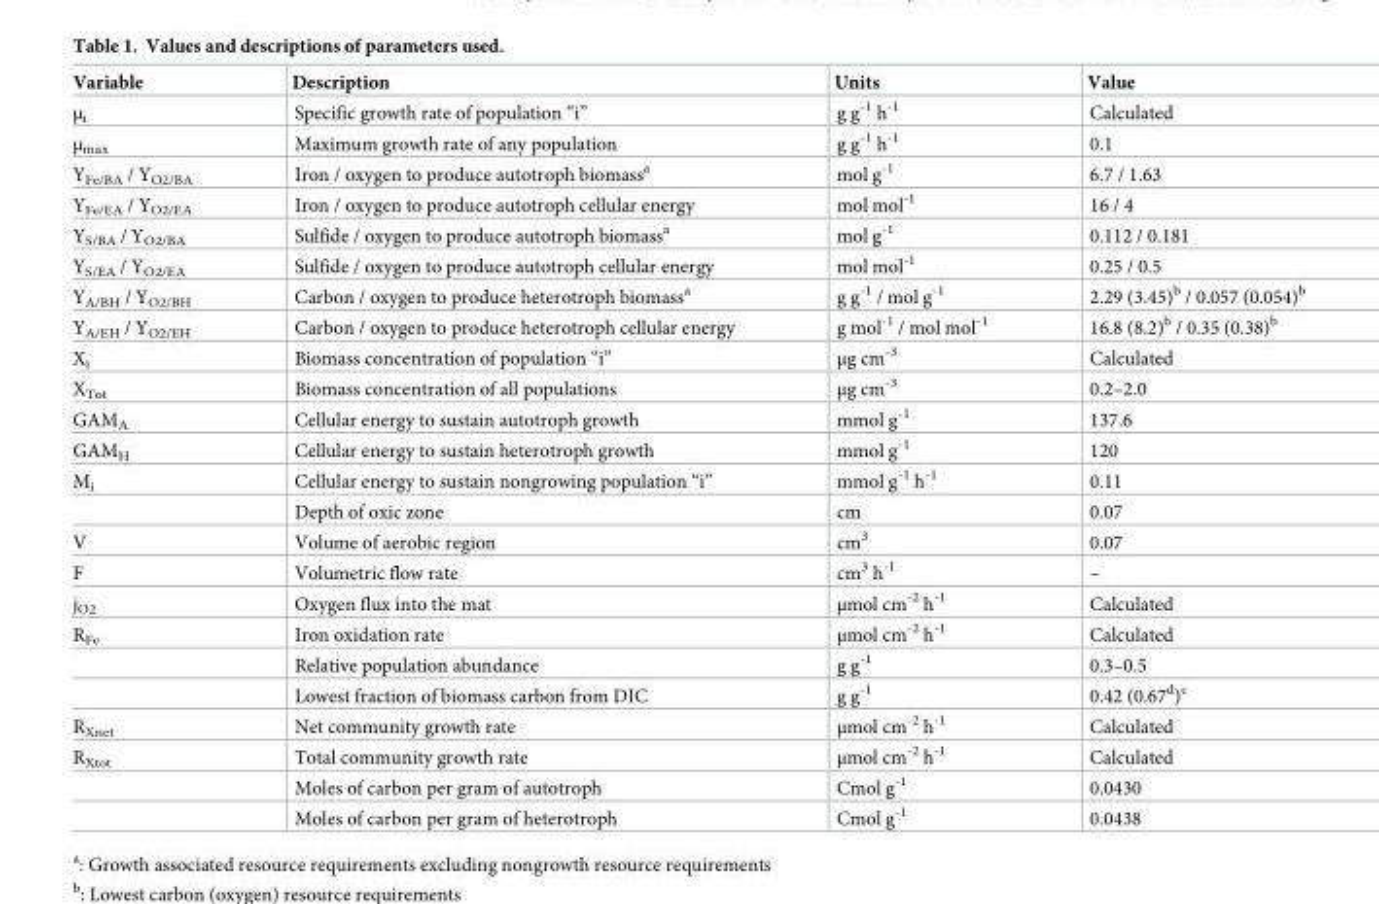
<table><thead><tr><td>Variable</td><td>Description</td><td>Units</td><td>Value</td></tr></thead><tbody><tr><td>μ<sub>i</sub></td><td>Specific growth rate of population “i”</td><td>g g<sup>-1</sup> h<sup>-1</sup></td><td>Calculated</td></tr><tr><td>μ<sub>max</sub></td><td>Maximum growth rate of any population</td><td>g g<sup>-1</sup> h<sup>-1</sup></td><td>0.1</td></tr><tr><td>Y<sub>Fe/BA</sub> / Y<sub>O2/BA</sub></td><td>Iron / oxygen to produce autotroph biomass<sup>a</sup></td><td>mol g<sup>-1</sup></td><td>6.7 / 1.63</td></tr><tr><td>Y<sub>Fe/EA</sub> / Y<sub>O2/EA</sub></td><td>Iron / oxygen to produce autotroph cellular energy</td><td>mol mol<sup>-1</sup></td><td>16 / 4</td></tr><tr><td>Y<sub>S/BA</sub> / Y<sub>O2/BA</sub></td><td>Sulfide / oxygen to produce autotroph biomass<sup>a</sup></td><td>mol g<sup>-1</sup></td><td>0.112 / 0.181</td></tr><tr><td>Y<sub>S/EA</sub> / Y<sub>O2/EA</sub></td><td>Sulfide / oxygen to produce autotroph cellular energy</td><td>mol mol<sup>-1</sup></td><td>0.25 / 0.5</td></tr><tr><td>Y<sub>A/BH</sub> / Y<sub>O2/BH</sub></td><td>Carbon / oxygen to produce heterotroph biomass<sup>a</sup></td><td>g g<sup>-1</sup> / mol g<sup>-1</sup></td><td>2.29 (3.45)<sup>b</sup> / 0.057 (0.054)<sup>b</sup></td></tr><tr><td>Y<sub>A/EH</sub> / Y<sub>O2/EH</sub></td><td>Carbon / oxygen to produce heterotroph cellular energy</td><td>g mol<sup>-1</sup> / mol mol<sup>-1</sup></td><td>16.8 (8.2)<sup>b</sup> / 0.35 (0.38)<sup>b</sup></td></tr><tr><td>X<sub>i</sub></td><td>Biomass concentration of population “i”</td><td>μg cm<sup>-3</sup></td><td>Calculated</td></tr><tr><td>X<sub>Tot</sub></td><td>Biomass concentration of all populations</td><td>μg cm<sup>-3</sup></td><td>0.2–2.0</td></tr><tr><td>GAM<sub>A</sub></td><td>Cellular energy to sustain autotroph growth</td><td>mmol g<sup>-1</sup></td><td>137.6</td></tr><tr><td>GAM<sub>H</sub></td><td>Cellular energy to sustain heterotroph growth</td><td>mmol g<sup>-1</sup></td><td>120</td></tr><tr><td rowspan="2">M<sub>i</sub></td><td>Cellular energy to sustain nongrowing population “i”</td><td>mmol g<sup>-1</sup> h<sup>-1</sup></td><td>0.11</td></tr><tr><td>Depth of oxic zone</td><td>cm</td><td>0.07</td></tr><tr><td>V</td><td>Volume of aerobic region</td><td>cm<sup>3</sup></td><td>0.07</td></tr><tr><td>F</td><td>Volumetric flow rate</td><td>cm<sup>3</sup> h<sup>-1</sup></td><td>–</td></tr><tr><td>j<sub>O2</sub></td><td>Oxygen flux into the mat</td><td>μmol cm<sup>-2</sup> h<sup>-1</sup></td><td>Calculated</td></tr><tr><td rowspan="3">R<sub>Fe</sub></td><td>Iron oxidation rate</td><td>μmol cm<sup>-2</sup> h<sup>-1</sup></td><td>Calculated</td></tr><tr><td>Relative population abundance</td><td>g g<sup>-1</sup></td><td>0.3–0.5</td></tr><tr><td>Lowest fraction of biomass carbon from DIC</td><td>g g<sup>-1</sup></td><td>0.42 (0.67<sup>d</sup>)<sup>c</sup></td></tr><tr><td>R<sub>Xnet</sub></td><td>Net community growth rate</td><td>μmol cm<sup>-2</sup> h<sup>-1</sup></td><td>Calculated</td></tr><tr><td rowspan="3">R<sub>Xtot</sub></td><td>Total community growth rate</td><td>μmol cm<sup>-2</sup> h<sup>-1</sup></td><td>Calculated</td></tr><tr><td>Moles of carbon per gram of autotroph</td><td>Cmol g<sup>-1</sup></td><td>0.0430</td></tr><tr><td>Moles of carbon per gram of heterotroph</td><td>Cmol g<sup>-1</sup></td><td>0.0438</td></tr></tbody></table>